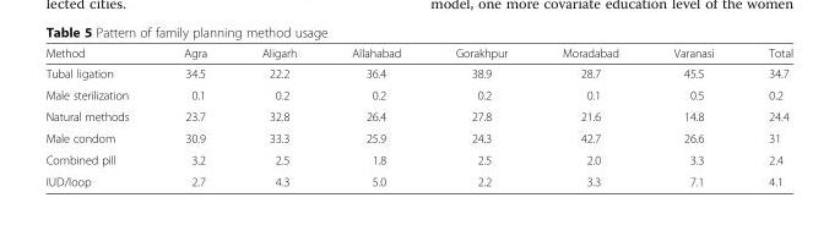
<table><thead><tr><td>Method</td><td>Agra</td><td>Aligarh</td><td>Allahabad</td><td>Gorakhpur</td><td>Moradabad</td><td>Varanasi</td><td>Total</td></tr></thead><tbody><tr><td>Tubal ligation</td><td>34.5</td><td>22.2</td><td>36.4</td><td>38.9</td><td>28.7</td><td>45.5</td><td>34.7</td></tr><tr><td>Male sterilization</td><td>0.1</td><td>0.2</td><td>0.2</td><td>0.2</td><td>0.1</td><td>0.5</td><td>0.2</td></tr><tr><td>Natural methods</td><td>23.7</td><td>32.8</td><td>26.4</td><td>27.8</td><td>21.6</td><td>14.8</td><td>24.4</td></tr><tr><td>Male condom</td><td>30.9</td><td>33.3</td><td>25.9</td><td>24.3</td><td>42.7</td><td>26.6</td><td>31</td></tr><tr><td>Combined pill</td><td>3.2</td><td>2.5</td><td>1.8</td><td>2.5</td><td>2.0</td><td>3.3</td><td>2.4</td></tr><tr><td>IUD/loop</td><td>2.7</td><td>4.3</td><td>5.0</td><td>2.2</td><td>3.3</td><td>7.1</td><td>4.1</td></tr></tbody></table>